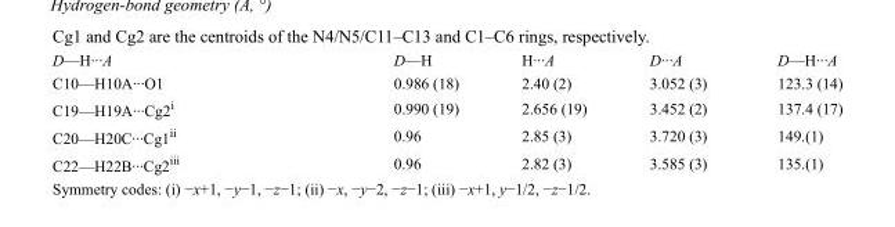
<table><tbody><tr><td>D—H···A</td><td>D—H</td><td>H···A</td><td>D···A</td><td>D—H···A</td></tr><tr><td>C10—H10A···O1</td><td>0.986 (18)</td><td>2.40 (2)</td><td>3.052 (3)</td><td>123.3 (14)</td></tr><tr><td>C19—H19A···Cg2<sup>i</sup></td><td>0.990 (19)</td><td>2.656 (19)</td><td>3.452 (2)</td><td>137.4 (17)</td></tr><tr><td>C20—H20C···Cg1<sup>ii</sup></td><td>0.96</td><td>2.85 (3)</td><td>3.720 (3)</td><td>149.(1)</td></tr><tr><td>C22—H22B···Cg2<sup>iii</sup></td><td>0.96</td><td>2.82 (3)</td><td>3.585 (3)</td><td>135.(1)</td></tr></tbody></table>